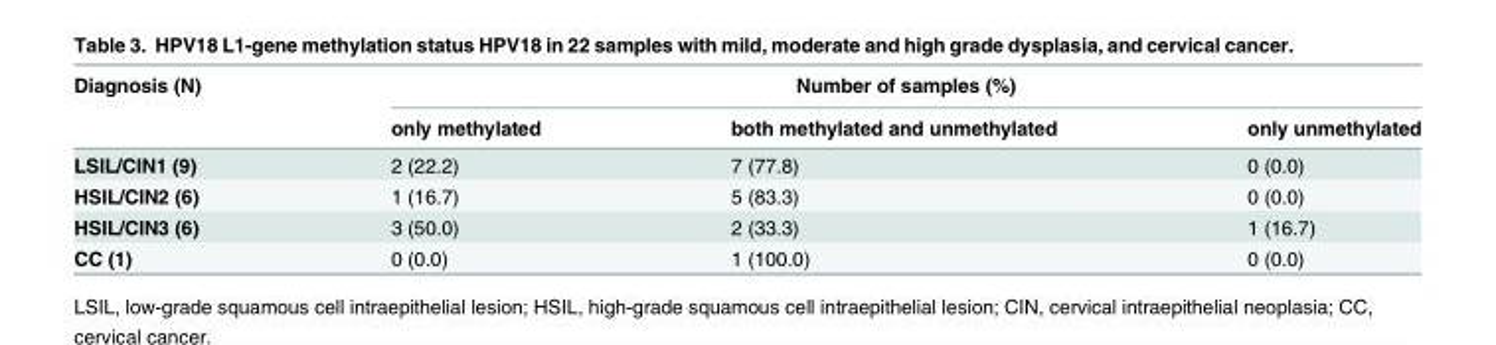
<table><thead><tr><td rowspan="2">Diagnosis (N)</td><td colspan="3">Number of samples (%)</td></tr><tr><td>only methylated</td><td>both methylated and unmethylated</td><td>only unmethylated</td></tr></thead><tbody><tr><td>LSIL/CIN1 (9)</td><td>2 (22.2)</td><td>7 (77.8)</td><td>0 (0.0)</td></tr><tr><td>HSIL/CIN2 (6)</td><td>1 (16.7)</td><td>5 (83.3)</td><td>0 (0.0)</td></tr><tr><td>HSIL/CIN3 (6)</td><td>3 (50.0)</td><td>2 (33.3)</td><td>1 (16.7)</td></tr><tr><td>CC (1)</td><td>0 (0.0)</td><td>1 (100.0)</td><td>0 (0.0)</td></tr></tbody></table>